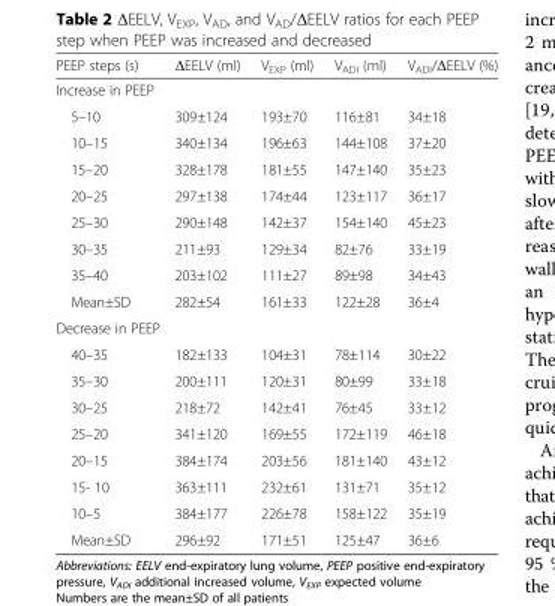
<table><thead><tr><td>PEEP steps (s)</td><td>ΔEELV (ml)</td><td>V<sub>EXP</sub> (ml)</td><td>V<sub>ADI</sub> (ml)</td><td>V<sub>ADI</sub>/ΔEELV (%)</td></tr></thead><tbody><tr><td colspan="5">Increase in PEEP</td></tr><tr><td>5–10</td><td>309±124</td><td>193±70</td><td>116±81</td><td>34±18</td></tr><tr><td>10–15</td><td>340±134</td><td>196±63</td><td>144±108</td><td>37±20</td></tr><tr><td>15–20</td><td>328±178</td><td>181±55</td><td>147±140</td><td>35±23</td></tr><tr><td>20–25</td><td>297±138</td><td>174±44</td><td>123±117</td><td>36±17</td></tr><tr><td>25–30</td><td>290±148</td><td>142±37</td><td>154±140</td><td>45±23</td></tr><tr><td>30–35</td><td>211±93</td><td>129±34</td><td>82±76</td><td>33±19</td></tr><tr><td>35–40</td><td>203±102</td><td>111±27</td><td>89±98</td><td>34±43</td></tr><tr><td>Mean±SD</td><td>282±54</td><td>161±33</td><td>122±28</td><td>36±4</td></tr><tr><td colspan="5">Decrease in PEEP</td></tr><tr><td>40–35</td><td>182±133</td><td>104±31</td><td>78±114</td><td>30±22</td></tr><tr><td>35–30</td><td>200±111</td><td>120±31</td><td>80±99</td><td>33±18</td></tr><tr><td>30–25</td><td>218±72</td><td>142±41</td><td>76±45</td><td>33±12</td></tr><tr><td>25–20</td><td>341±120</td><td>169±55</td><td>172±119</td><td>46±18</td></tr><tr><td>20–15</td><td>384±174</td><td>203±56</td><td>181±140</td><td>43±12</td></tr><tr><td>15- 10</td><td>363±111</td><td>232±61</td><td>131±71</td><td>35±12</td></tr><tr><td>10–5</td><td>384±177</td><td>226±78</td><td>158±122</td><td>35±19</td></tr><tr><td>Mean±SD</td><td>296±92</td><td>171±51</td><td>125±47</td><td>36±6</td></tr></tbody></table>